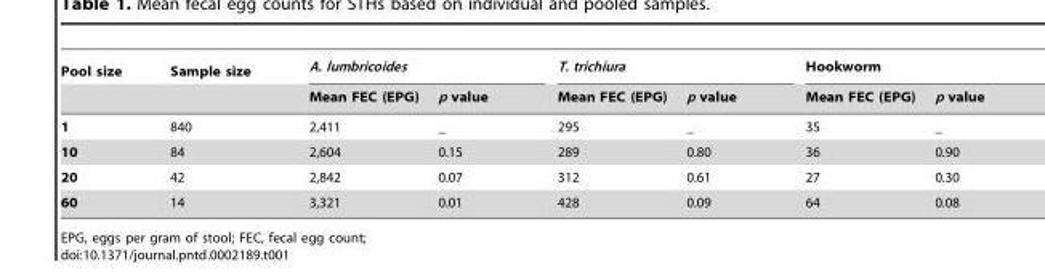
<table><thead><tr><td rowspan="2">Pool size</td><td rowspan="2">Sample size</td><td colspan="2">A. lumbricoides</td><td colspan="2">T. trichiura</td><td colspan="2">Hookworm</td></tr><tr><td>Mean FEC (EPG)</td><td>p value</td><td>Mean FEC (EPG)</td><td>p value</td><td>Mean FEC (EPG)</td><td>p value</td></tr></thead><tbody><tr><td>1</td><td>840</td><td>2,411</td><td>_</td><td>295</td><td>_</td><td>35</td><td>_</td></tr><tr><td>10</td><td>84</td><td>2,604</td><td>0.15</td><td>289</td><td>0.80</td><td>36</td><td>0.90</td></tr><tr><td>20</td><td>42</td><td>2,842</td><td>0.07</td><td>312</td><td>0.61</td><td>27</td><td>0.30</td></tr><tr><td>60</td><td>14</td><td>3,321</td><td>0.01</td><td>428</td><td>0.09</td><td>64</td><td>0.08</td></tr></tbody></table>